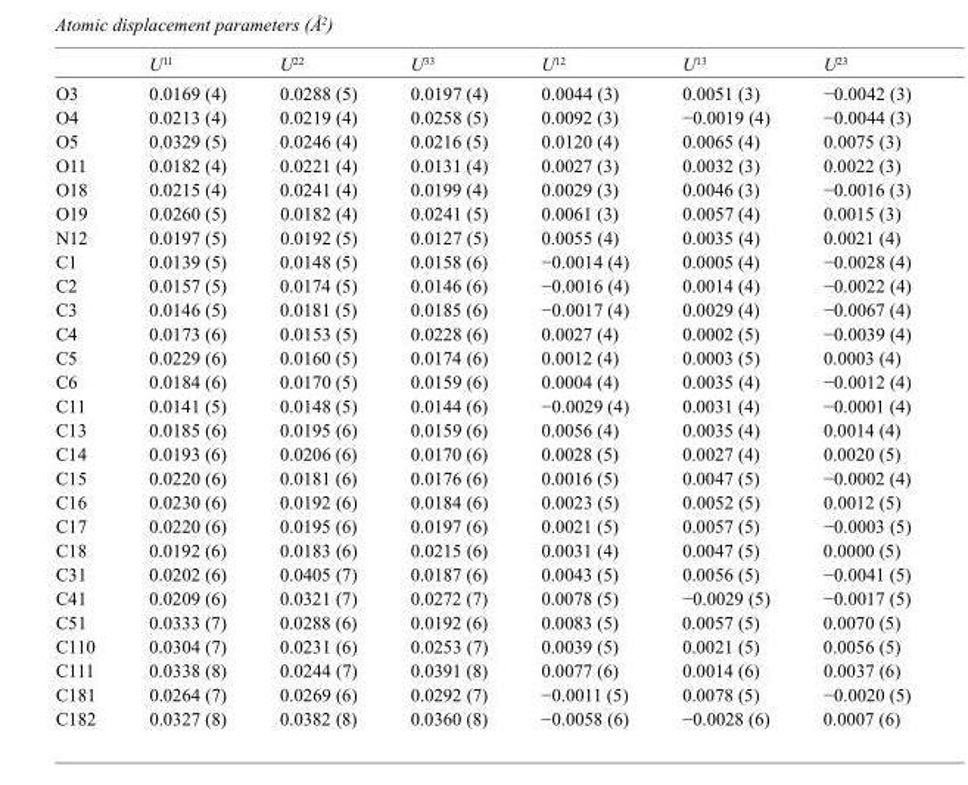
<table><thead><tr><td></td><td>U<sup>11</sup></td><td>U<sup>22</sup></td><td>U<sup>33</sup></td><td>U<sup>12</sup></td><td>U<sup>13</sup></td><td>U<sup>23</sup></td></tr></thead><tbody><tr><td>O3</td><td>0.0169 (4)</td><td>0.0288 (5)</td><td>0.0197 (4)</td><td>0.0044 (3)</td><td>0.0051 (3)</td><td>−0.0042 (3)</td></tr><tr><td>O4</td><td>0.0213 (4)</td><td>0.0219 (4)</td><td>0.0258 (5)</td><td>0.0092 (3)</td><td>−0.0019 (4)</td><td>−0.0044 (3)</td></tr><tr><td>O5</td><td>0.0329 (5)</td><td>0.0246 (4)</td><td>0.0216 (5)</td><td>0.0120 (4)</td><td>0.0065 (4)</td><td>0.0075 (3)</td></tr><tr><td>O11</td><td>0.0182 (4)</td><td>0.0221 (4)</td><td>0.0131 (4)</td><td>0.0027 (3)</td><td>0.0032 (3)</td><td>0.0022 (3)</td></tr><tr><td>O18</td><td>0.0215 (4)</td><td>0.0241 (4)</td><td>0.0199 (4)</td><td>0.0029 (3)</td><td>0.0046 (3)</td><td>−0.0016 (3)</td></tr><tr><td>O19</td><td>0.0260 (5)</td><td>0.0182 (4)</td><td>0.0241 (5)</td><td>0.0061 (3)</td><td>0.0057 (4)</td><td>0.0015 (3)</td></tr><tr><td>N12</td><td>0.0197 (5)</td><td>0.0192 (5)</td><td>0.0127 (5)</td><td>0.0055 (4)</td><td>0.0035 (4)</td><td>0.0021 (4)</td></tr><tr><td>C1</td><td>0.0139 (5)</td><td>0.0148 (5)</td><td>0.0158 (6)</td><td>−0.0014 (4)</td><td>0.0005 (4)</td><td>−0.0028 (4)</td></tr><tr><td>C2</td><td>0.0157 (5)</td><td>0.0174 (5)</td><td>0.0146 (6)</td><td>−0.0016 (4)</td><td>0.0014 (4)</td><td>−0.0022 (4)</td></tr><tr><td>C3</td><td>0.0146 (5)</td><td>0.0181 (5)</td><td>0.0185 (6)</td><td>−0.0017 (4)</td><td>0.0029 (4)</td><td>−0.0067 (4)</td></tr><tr><td>C4</td><td>0.0173 (6)</td><td>0.0153 (5)</td><td>0.0228 (6)</td><td>0.0027 (4)</td><td>0.0002 (5)</td><td>−0.0039 (4)</td></tr><tr><td>C5</td><td>0.0229 (6)</td><td>0.0160 (5)</td><td>0.0174 (6)</td><td>0.0012 (4)</td><td>0.0003 (5)</td><td>0.0003 (4)</td></tr><tr><td>C6</td><td>0.0184 (6)</td><td>0.0170 (5)</td><td>0.0159 (6)</td><td>0.0004 (4)</td><td>0.0035 (4)</td><td>−0.0012 (4)</td></tr><tr><td>C11</td><td>0.0141 (5)</td><td>0.0148 (5)</td><td>0.0144 (6)</td><td>−0.0029 (4)</td><td>0.0031 (4)</td><td>−0.0001 (4)</td></tr><tr><td>C13</td><td>0.0185 (6)</td><td>0.0195 (6)</td><td>0.0159 (6)</td><td>0.0056 (4)</td><td>0.0035 (4)</td><td>0.0014 (4)</td></tr><tr><td>C14</td><td>0.0193 (6)</td><td>0.0206 (6)</td><td>0.0170 (6)</td><td>0.0028 (5)</td><td>0.0027 (4)</td><td>0.0020 (5)</td></tr><tr><td>C15</td><td>0.0220 (6)</td><td>0.0181 (6)</td><td>0.0176 (6)</td><td>0.0016 (5)</td><td>0.0047 (5)</td><td>−0.0002 (4)</td></tr><tr><td>C16</td><td>0.0230 (6)</td><td>0.0192 (6)</td><td>0.0184 (6)</td><td>0.0023 (5)</td><td>0.0052 (5)</td><td>0.0012 (5)</td></tr><tr><td>C17</td><td>0.0220 (6)</td><td>0.0195 (6)</td><td>0.0197 (6)</td><td>0.0021 (5)</td><td>0.0057 (5)</td><td>−0.0003 (5)</td></tr><tr><td>C18</td><td>0.0192 (6)</td><td>0.0183 (6)</td><td>0.0215 (6)</td><td>0.0031 (4)</td><td>0.0047 (5)</td><td>0.0000 (5)</td></tr><tr><td>C31</td><td>0.0202 (6)</td><td>0.0405 (7)</td><td>0.0187 (6)</td><td>0.0043 (5)</td><td>0.0056 (5)</td><td>−0.0041 (5)</td></tr><tr><td>C41</td><td>0.0209 (6)</td><td>0.0321 (7)</td><td>0.0272 (7)</td><td>0.0078 (5)</td><td>−0.0029 (5)</td><td>−0.0017 (5)</td></tr><tr><td>C51</td><td>0.0333 (7)</td><td>0.0288 (6)</td><td>0.0192 (6)</td><td>0.0083 (5)</td><td>0.0057 (5)</td><td>0.0070 (5)</td></tr><tr><td>C110</td><td>0.0304 (7)</td><td>0.0231 (6)</td><td>0.0253 (7)</td><td>0.0039 (5)</td><td>0.0021 (5)</td><td>0.0056 (5)</td></tr><tr><td>C111</td><td>0.0338 (8)</td><td>0.0244 (7)</td><td>0.0391 (8)</td><td>0.0077 (6)</td><td>0.0014 (6)</td><td>0.0037 (6)</td></tr><tr><td>C181</td><td>0.0264 (7)</td><td>0.0269 (6)</td><td>0.0292 (7)</td><td>−0.0011 (5)</td><td>0.0078 (5)</td><td>−0.0020 (5)</td></tr><tr><td>C182</td><td>0.0327 (8)</td><td>0.0382 (8)</td><td>0.0360 (8)</td><td>−0.0058 (6)</td><td>−0.0028 (6)</td><td>0.0007 (6)</td></tr></tbody></table>